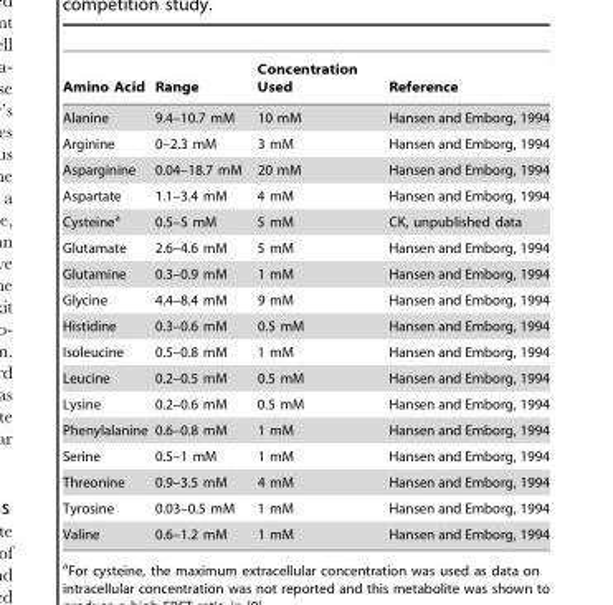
<table><thead><tr><td>Amino Acid</td><td>Range</td><td>Concentration Used</td><td>Reference</td></tr></thead><tbody><tr><td>Alanine</td><td>9.4–10.7 mM</td><td>10 mM</td><td>Hansen and Emborg, 1994</td></tr><tr><td>Arginine</td><td>0–2.3 mM</td><td>3 mM</td><td>Hansen and Emborg, 1994</td></tr><tr><td>Asparginine</td><td>0.04–18.7 mM</td><td>20 mM</td><td>Hansen and Emborg, 1994</td></tr><tr><td>Aspartate</td><td>1.1–3.4 mM</td><td>4 mM</td><td>Hansen and Emborg, 1994</td></tr><tr><td>Cysteine<sup>a</sup></td><td>0.5–5 mM</td><td>5 mM</td><td>CK, unpublished data</td></tr><tr><td>Glutamate</td><td>2.6–4.6 mM</td><td>5 mM</td><td>Hansen and Emborg, 1994</td></tr><tr><td>Glutamine</td><td>0.3–0.9 mM</td><td>1 mM</td><td>Hansen and Emborg, 1994</td></tr><tr><td>Glycine</td><td>4.4–8.4 mM</td><td>9 mM</td><td>Hansen and Emborg, 1994</td></tr><tr><td>Histidine</td><td>0.3–0.6 mM</td><td>0.5 mM</td><td>Hansen and Emborg, 1994</td></tr><tr><td>Isoleucine</td><td>0.5–0.8 mM</td><td>1 mM</td><td>Hansen and Emborg, 1994</td></tr><tr><td>Leucine</td><td>0.2–0.5 mM</td><td>0.5 mM</td><td>Hansen and Emborg, 1994</td></tr><tr><td>Lysine</td><td>0.2–0.6 mM</td><td>0.5 mM</td><td>Hansen and Emborg, 1994</td></tr><tr><td>Phenylalanine</td><td>0.6–0.8 mM</td><td>1 mM</td><td>Hansen and Emborg, 1994</td></tr><tr><td>Serine</td><td>0.5–1 mM</td><td>1 mM</td><td>Hansen and Emborg, 1994</td></tr><tr><td>Threonine</td><td>0.9–3.5 mM</td><td>4 mM</td><td>Hansen and Emborg, 1994</td></tr><tr><td>Tyrosine</td><td>0.03–0.5 mM</td><td>1 mM</td><td>Hansen and Emborg, 1994</td></tr><tr><td>Valine</td><td>0.6–1.2 mM</td><td>1 mM</td><td>Hansen and Emborg, 1994</td></tr></tbody></table>